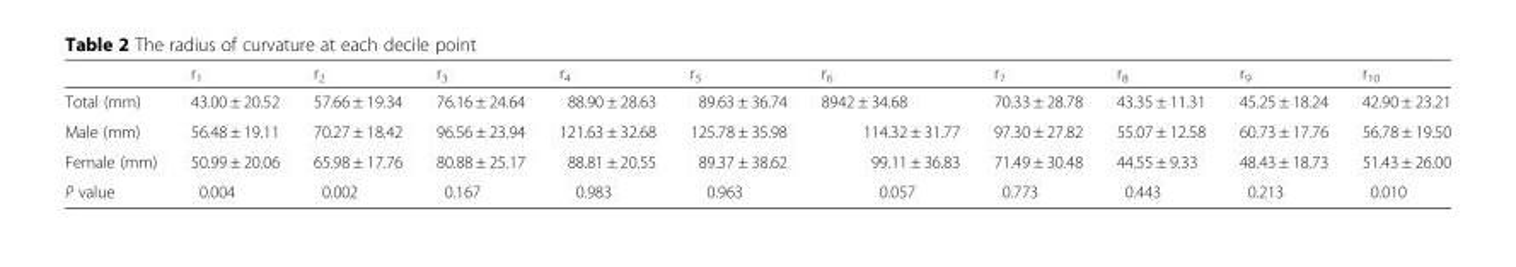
<table><thead><tr><td></td><td>r<sub>1</sub></td><td>r<sub>2</sub></td><td>r<sub>3</sub></td><td>r<sub>4</sub></td><td>r<sub>5</sub></td><td>r<sub>6</sub></td><td>r<sub>7</sub></td><td>r<sub>8</sub></td><td>r<sub>9</sub></td><td>r<sub>10</sub></td></tr></thead><tbody><tr><td>Total (mm)</td><td>43.00 ± 20.52</td><td>57.66 ± 19.34</td><td>76.16 ± 24.64</td><td>88.90 ± 28.63</td><td>89.63 ± 36.74</td><td>8942 ± 34.68</td><td>70.33 ± 28.78</td><td>43.35 ± 11.31</td><td>45.25 ± 18.24</td><td>42.90 ± 23.21</td></tr><tr><td>Male (mm)</td><td>56.48 ± 19.11</td><td>70.27 ± 18.42</td><td>96.56 ± 23.94</td><td>121.63 ± 32.68</td><td>125.78 ± 35.98</td><td>114.32 ± 31.77</td><td>97.30 ± 27.82</td><td>55.07 ± 12.58</td><td>60.73 ± 17.76</td><td>56.78 ± 19.50</td></tr><tr><td>Female (mm)</td><td>50.99 ± 20.06</td><td>65.98 ± 17.76</td><td>80.88 ± 25.17</td><td>88.81 ± 20.55</td><td>89.37 ± 38.62</td><td>99.11 ± 36.83</td><td>71.49 ± 30.48</td><td>44.55 ± 9.33</td><td>48.43 ± 18.73</td><td>51.43 ± 26.00</td></tr><tr><td>P value</td><td>0.004</td><td>0.002</td><td>0.167</td><td>0.983</td><td>0.963</td><td>0.057</td><td>0.773</td><td>0.443</td><td>0.213</td><td>0.010</td></tr></tbody></table>